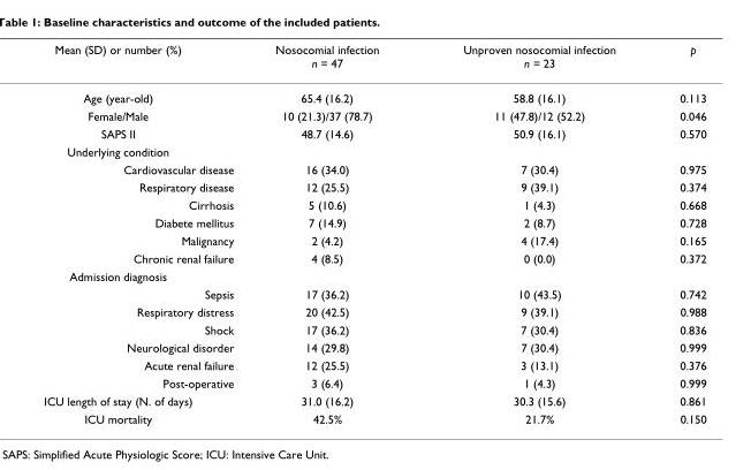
<table><thead><tr><td>Mean (SD) or number (%)</td><td>Nosocomial infection n = 47</td><td>Unproven nosocomial infection n = 23</td><td>p</td></tr></thead><tbody><tr><td>Age (year-old)</td><td>65.4 (16.2)</td><td>58.8 (16.1)</td><td>0.113</td></tr><tr><td>Female/Male</td><td>10 (21.3)/37 (78.7)</td><td>11 (47.8)/12 (52.2)</td><td>0.046</td></tr><tr><td>SAPS II</td><td>48.7 (14.6)</td><td>50.9 (16.1)</td><td>0.570</td></tr><tr><td colspan="4">Underlying condition</td></tr><tr><td>Cardiovascular disease</td><td>16 (34.0)</td><td>7 (30.4)</td><td>0.975</td></tr><tr><td>Respiratory disease</td><td>12 (25.5)</td><td>9 (39.1)</td><td>0.374</td></tr><tr><td>Cirrhosis</td><td>5 (10.6)</td><td>1 (4.3)</td><td>0.668</td></tr><tr><td>Diabete mellitus</td><td>7 (14.9)</td><td>2 (8.7)</td><td>0.728</td></tr><tr><td>Malignancy</td><td>2 (4.2)</td><td>4 (17.4)</td><td>0.165</td></tr><tr><td>Chronic renal failure</td><td>4 (8.5)</td><td>0 (0.0)</td><td>0.372</td></tr><tr><td colspan="4">Admission diagnosis</td></tr><tr><td>Sepsis</td><td>17 (36.2)</td><td>10 (43.5)</td><td>0.742</td></tr><tr><td>Respiratory distress</td><td>20 (42.5)</td><td>9 (39.1)</td><td>0.988</td></tr><tr><td>Shock</td><td>17 (36.2)</td><td>7 (30.4)</td><td>0.836</td></tr><tr><td>Neurological disorder</td><td>14 (29.8)</td><td>7 (30.4)</td><td>0.999</td></tr><tr><td>Acute renal failure</td><td>12 (25.5)</td><td>3 (13.1)</td><td>0.376</td></tr><tr><td>Post-operative</td><td>3 (6.4)</td><td>1 (4.3)</td><td>0.999</td></tr><tr><td>ICU length of stay (N. of days)</td><td>31.0 (16.2)</td><td>30.3 (15.6)</td><td>0.861</td></tr><tr><td>ICU mortality</td><td>42.5%</td><td>21.7%</td><td>0.150</td></tr></tbody></table>